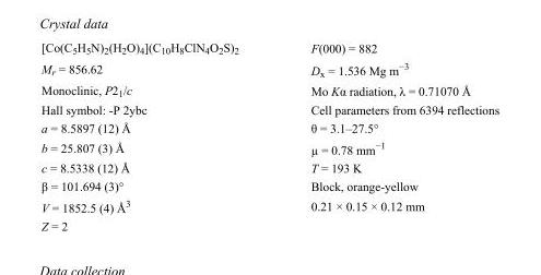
<table><tbody><tr><td>[Co(C<sub>5</sub>H<sub>5</sub>N)<sub>2</sub>(H<sub>2</sub>O)<sub>4</sub>](C<sub>10</sub>H<sub>8</sub>ClN<sub>4</sub>O<sub>2</sub>S)<sub>2</sub></td><td>F(000) = 882</td></tr><tr><td>M<sub>r</sub> = 856.62</td><td>D<sub>x</sub> = 1.536 Mg m<sup>−3</sup></td></tr><tr><td>Monoclinic, P2<sub>1</sub>/c</td><td>Mo Kα radiation, λ = 0.71070 Å</td></tr><tr><td>Hall symbol: -P 2ybc</td><td>Cell parameters from 6394 reflections</td></tr><tr><td>a = 8.5897 (12) Å</td><td>θ = 3.1–27.5°</td></tr><tr><td>b = 25.807 (3) Å</td><td>µ = 0.78 mm<sup>−1</sup></td></tr><tr><td>c = 8.5338 (12) Å</td><td>T = 193 K</td></tr><tr><td>β = 101.694 (3)°</td><td>Block, orange-yellow</td></tr><tr><td>V = 1852.5 (4) Å<sup>3</sup></td><td>0.21 × 0.15 × 0.12 mm</td></tr><tr><td>Z = 2</td><td></td></tr></tbody></table>